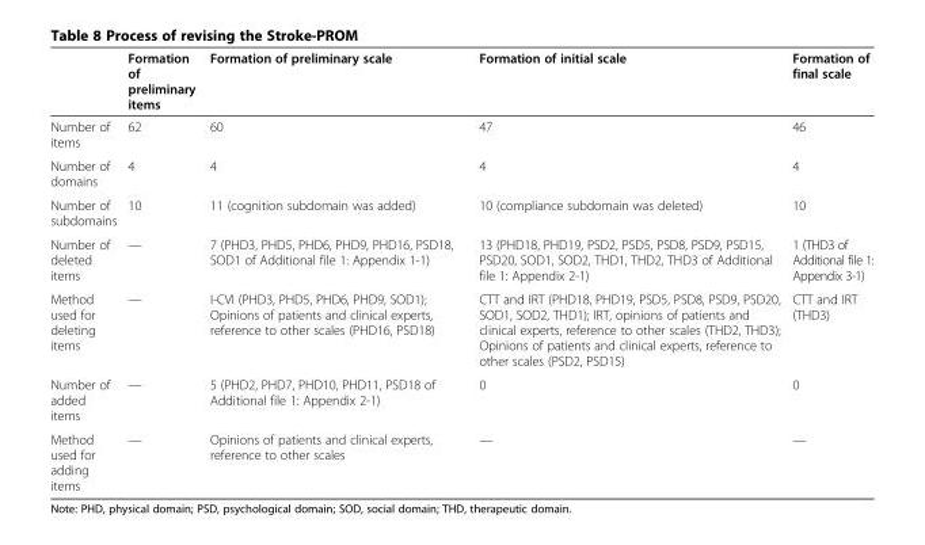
<table><thead><tr><td></td><td>Formation of preliminary items</td><td>Formation of preliminary scale</td><td>Formation of initial scale</td><td>Formation of final scale</td></tr></thead><tbody><tr><td>Number of items</td><td>62</td><td>60</td><td>47</td><td>46</td></tr><tr><td>Number of domains</td><td>4</td><td>4</td><td>4</td><td>4</td></tr><tr><td>Number of subdomains</td><td>10</td><td>11 (cognition subdomain was added)</td><td>10 (compliance subdomain was deleted)</td><td>10</td></tr><tr><td>Number of deleted items</td><td>—</td><td>7 (PHD3, PHD5, PHD6, PHD9, PHD16, PSD18, SOD1 of Additional file 1: Appendix 1-1)</td><td>13 (PHD18, PHD19, PSD2, PSD5, PSD8, PSD9, PSD15, PSD20, SOD1, SOD2, THD1, THD2, THD3 of Additional file 1: Appendix 2-1)</td><td>1 (THD3 of Additional file 1: Appendix 3-1)</td></tr><tr><td>Method used for deleting items</td><td>—</td><td>I-CVI (PHD3, PHD5, PHD6, PHD9, SOD1); Opinions of patients and clinical experts, reference to other scales (PHD16, PSD18)</td><td>CTT and IRT (PHD18, PHD19, PSD5, PSD8, PSD9, PSD20, SOD1, SOD2, THD1); IRT, opinions of patients and clinical experts, reference to other scales (THD2, THD3); Opinions of patients and clinical experts, reference to other scales (PSD2, PSD15)</td><td>CTT and IRT (THD3)</td></tr><tr><td>Number of added items</td><td>—</td><td>5 (PHD2, PHD7, PHD10, PHD11, PSD18 of Additional file 1: Appendix 2-1)</td><td>0</td><td>0</td></tr><tr><td>Method used for adding items</td><td>—</td><td>Opinions of patients and clinical experts, reference to other scales</td><td>—</td><td>—</td></tr></tbody></table>